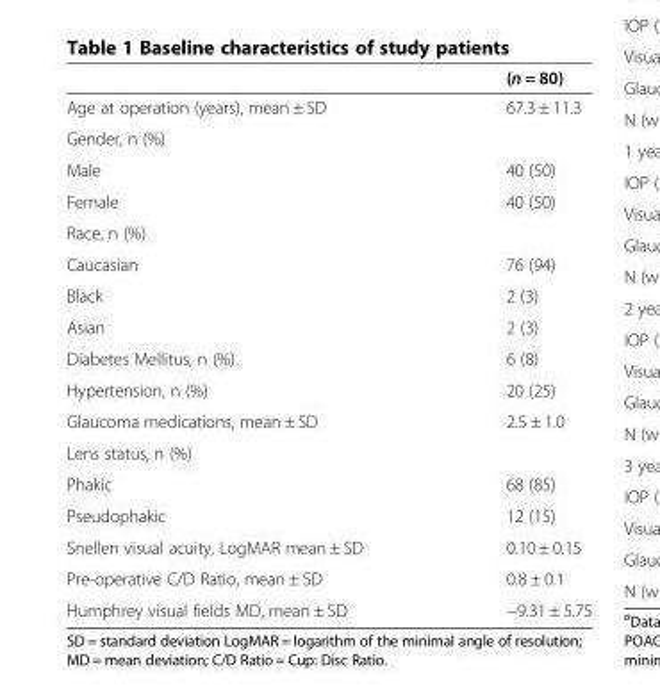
<table><thead><tr><td></td><td>(n = 80)</td></tr></thead><tbody><tr><td>Age at operation (years), mean ± SD</td><td>67.3 ± 11.3</td></tr><tr><td colspan="2">Gender, n (%)</td></tr><tr><td>Male</td><td>40 (50)</td></tr><tr><td>Female</td><td>40 (50)</td></tr><tr><td colspan="2">Race, n (%)</td></tr><tr><td>Caucasian</td><td>76 (94)</td></tr><tr><td>Black</td><td>2 (3)</td></tr><tr><td>Asian</td><td>2 (3)</td></tr><tr><td>Diabetes Mellitus, n (%)</td><td>6 (8)</td></tr><tr><td>Hypertension, n (%)</td><td>20 (25)</td></tr><tr><td>Glaucoma medications, mean ± SD</td><td>2.5 ± 1.0</td></tr><tr><td colspan="2">Lens status, n (%)</td></tr><tr><td>Phakic</td><td>68 (85)</td></tr><tr><td>Pseudophakic</td><td>12 (15)</td></tr><tr><td>Snellen visual acuity, LogMAR mean ± SD</td><td>0.10 ± 0.15</td></tr><tr><td>Pre-operative C/D Ratio, mean ± SD</td><td>0.8 ± 0.1</td></tr><tr><td>Humphrey visual fields MD, mean ± SD</td><td>−9.31 ± 5.75</td></tr></tbody></table>